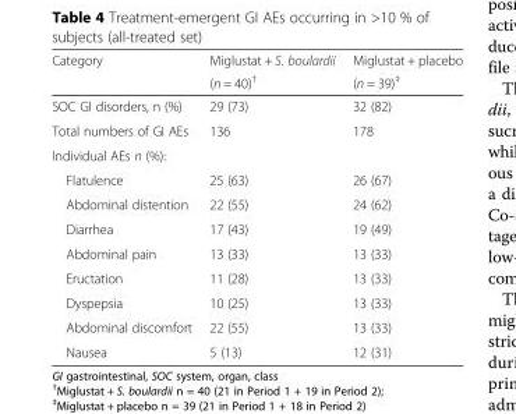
<table><thead><tr><td rowspan="2">Category</td><td rowspan="2">Miglustat + S. boulardii (n = 40)<sup>†</sup></td><td rowspan="2">Miglustat + placebo (n = 39)<sup>‡</sup></td></tr><tr></tr></thead><tbody><tr><td>SOC GI disorders, n (%)</td><td>29 (73)</td><td>32 (82)</td></tr><tr><td>Total numbers of GI AEs</td><td>136</td><td>178</td></tr><tr><td colspan="3">Individual AEs n (%):</td></tr><tr><td>Flatulence</td><td>25 (63)</td><td>26 (67)</td></tr><tr><td>Abdominal distention</td><td>22 (55)</td><td>24 (62)</td></tr><tr><td>Diarrhea</td><td>17 (43)</td><td>19 (49)</td></tr><tr><td>Abdominal pain</td><td>13 (33)</td><td>13 (33)</td></tr><tr><td>Eructation</td><td>11 (28)</td><td>13 (33)</td></tr><tr><td>Dyspepsia</td><td>10 (25)</td><td>13 (33)</td></tr><tr><td>Abdominal discomfort</td><td>22 (55)</td><td>13 (33)</td></tr><tr><td>Nausea</td><td>5 (13)</td><td>12 (31)</td></tr></tbody></table>